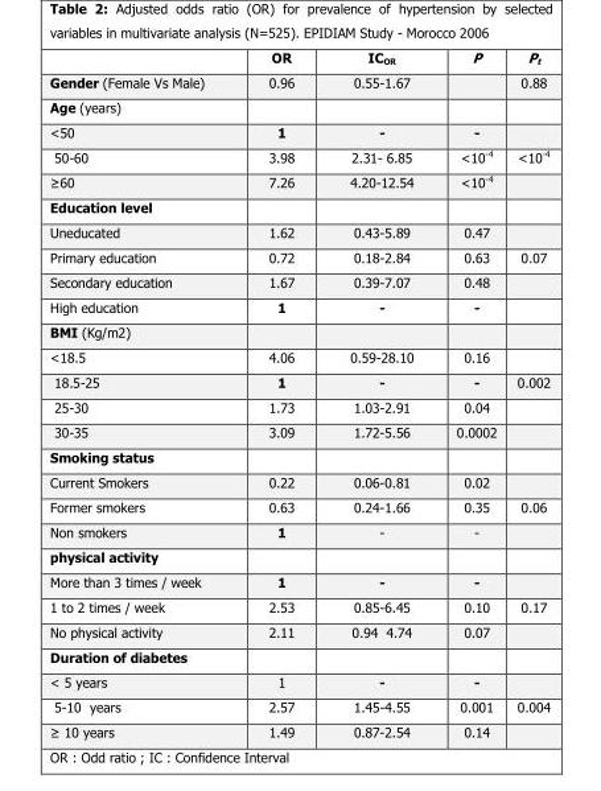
<table><thead><tr><td></td><td>OR</td><td>IC<sub>OR</sub></td><td>P</td><td>P<sub>t</sub></td></tr></thead><tbody><tr><td>Gender (Female Vs Male)</td><td>0.96</td><td>0.55-1.67</td><td></td><td>0.88</td></tr><tr><td colspan="5">Age (years)</td></tr><tr><td>&lt;50</td><td>1</td><td>-</td><td>-</td><td></td></tr><tr><td>50-60</td><td>3.98</td><td>2.31- 6.85</td><td>&lt;10<sup>-4</sup></td><td>&lt;10<sup>-4</sup></td></tr><tr><td>≥60</td><td>7.26</td><td>4.20-12.54</td><td>&lt;10<sup>-4</sup></td><td></td></tr><tr><td colspan="5">Education level</td></tr><tr><td>Uneducated</td><td>1.62</td><td>0.43-5.89</td><td>0.47</td><td></td></tr><tr><td>Primary education</td><td>0.72</td><td>0.18-2.84</td><td>0.63</td><td>0.07</td></tr><tr><td>Secondary education</td><td>1.67</td><td>0.39-7.07</td><td>0.48</td><td></td></tr><tr><td>High education</td><td>1</td><td>-</td><td>-</td><td></td></tr><tr><td colspan="5">BMI (Kg/m2)</td></tr><tr><td>&lt;18.5</td><td>4.06</td><td>0.59-28.10</td><td>0.16</td><td></td></tr><tr><td>18.5-25</td><td>1</td><td>-</td><td>-</td><td>0.002</td></tr><tr><td>25-30</td><td>1.73</td><td>1.03-2.91</td><td>0.04</td><td></td></tr><tr><td>30-35</td><td>3.09</td><td>1.72-5.56</td><td>0.0002</td><td></td></tr><tr><td colspan="5">Smoking status</td></tr><tr><td>Current Smokers</td><td>0.22</td><td>0.06-0.81</td><td>0.02</td><td></td></tr><tr><td>Former smokers</td><td>0.63</td><td>0.24-1.66</td><td>0.35</td><td>0.06</td></tr><tr><td>Non smokers</td><td>1</td><td>-</td><td>-</td><td></td></tr><tr><td colspan="5">physical activity</td></tr><tr><td>More than 3 times / week</td><td>1</td><td>-</td><td>-</td><td></td></tr><tr><td>1 to 2 times / week</td><td>2.53</td><td>0.85-6.45</td><td>0.10</td><td>0.17</td></tr><tr><td>No physical activity</td><td>2.11</td><td>0.94 4.74</td><td>0.07</td><td></td></tr><tr><td colspan="5">Duration of diabetes</td></tr><tr><td>&lt; 5 years</td><td>1</td><td>-</td><td>-</td><td></td></tr><tr><td>5-10 years</td><td>2.57</td><td>1.45-4.55</td><td>0.001</td><td>0.004</td></tr><tr><td>≥ 10 years</td><td>1.49</td><td>0.87-2.54</td><td>0.14</td><td></td></tr></tbody></table>